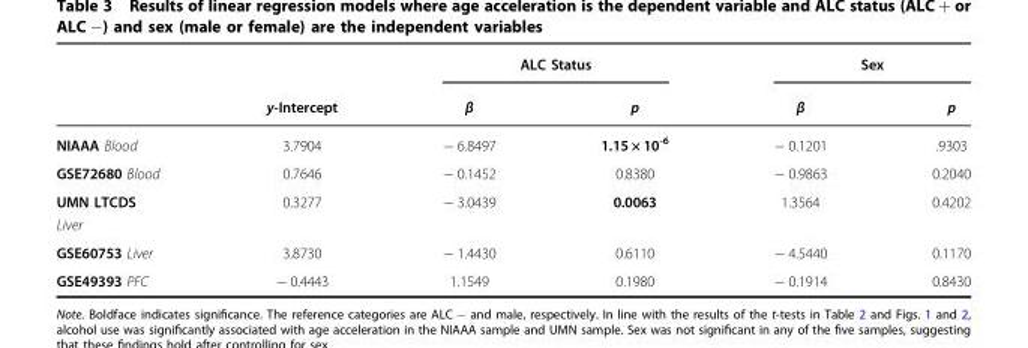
<table><thead><tr><td rowspan="2"></td><td rowspan="2">y-Intercept</td><td colspan="2">ALC Status</td><td colspan="2">Sex</td></tr><tr><td>β</td><td>p</td><td>β</td><td>p</td></tr></thead><tbody><tr><td>NIAAA Blood</td><td>3.7904</td><td>− 6.8497</td><td>1.15 × 10<sup>-6</sup></td><td>− 0.1201</td><td>.9303</td></tr><tr><td>GSE72680 Blood</td><td>0.7646</td><td>− 0.1452</td><td>0.8380</td><td>− 0.9863</td><td>0.2040</td></tr><tr><td>UMN LTCDS Liver</td><td>0.3277</td><td>− 3.0439</td><td>0.0063</td><td>1.3564</td><td>0.4202</td></tr><tr><td>GSE60753 Liver</td><td>3.8730</td><td>− 1.4430</td><td>0.6110</td><td>− 4.5440</td><td>0.1170</td></tr><tr><td>GSE49393 PFC</td><td>− 0.4443</td><td>1.1549</td><td>0.1980</td><td>− 0.1914</td><td>0.8430</td></tr></tbody></table>